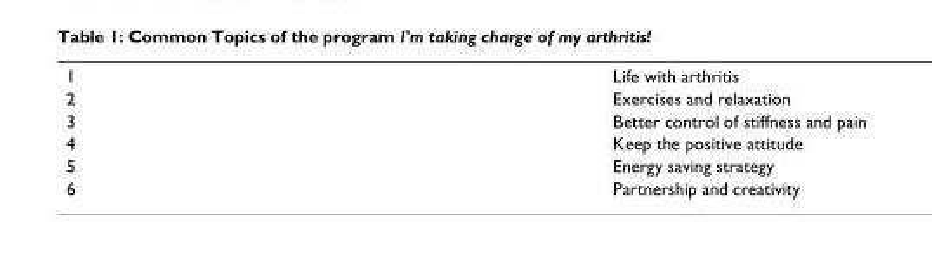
<table><tbody><tr><td>1</td><td>Life with arthritis</td></tr><tr><td>2</td><td>Exercises and relaxation</td></tr><tr><td>3</td><td>Better control of stiffness and pain</td></tr><tr><td>4</td><td>Keep the positive attitude</td></tr><tr><td>5</td><td>Energy saving strategy</td></tr><tr><td>6</td><td>Partnership and creativity</td></tr></tbody></table>